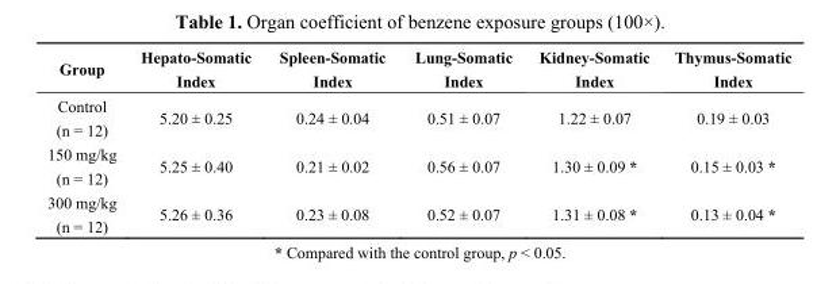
<table><thead><tr><td>Group</td><td>Hepato-Somatic Index</td><td>Spleen-Somatic Index</td><td>Lung-Somatic Index</td><td>Kidney-Somatic Index</td><td>Thymus-Somatic Index</td></tr></thead><tbody><tr><td>Control (n = 12)</td><td>5.20 ± 0.25</td><td>0.24 ± 0.04</td><td>0.51 ± 0.07</td><td>1.22 ± 0.07</td><td>0.19 ± 0.03</td></tr><tr><td>150 mg/kg (n = 12)</td><td>5.25 ± 0.40</td><td>0.21 ± 0.02</td><td>0.56 ± 0.07</td><td>1.30 ± 0.09 *</td><td>0.15 ± 0.03 *</td></tr><tr><td>300 mg/kg (n = 12)</td><td>5.26 ± 0.36</td><td>0.23 ± 0.08</td><td>0.52 ± 0.07</td><td>1.31 ± 0.08 *</td><td>0.13 ± 0.04 *</td></tr></tbody></table>